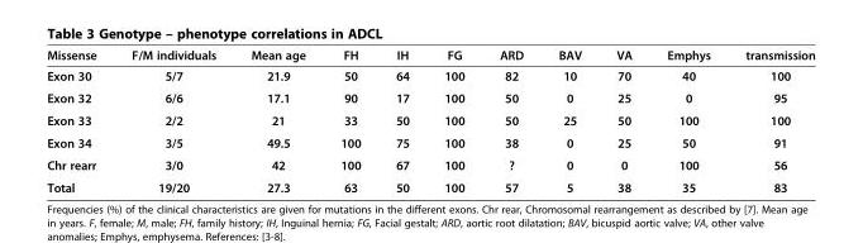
<table><thead><tr><td>Missense</td><td>F/M individuals</td><td>Mean age</td><td>FH</td><td>IH</td><td>FG</td><td>ARD</td><td>BAV</td><td>VA</td><td>Emphys</td><td>transmission</td></tr></thead><tbody><tr><td>Exon 30</td><td>5/7</td><td>21.9</td><td>50</td><td>64</td><td>100</td><td>82</td><td>10</td><td>70</td><td>40</td><td>100</td></tr><tr><td>Exon 32</td><td>6/6</td><td>17.1</td><td>90</td><td>17</td><td>100</td><td>50</td><td>0</td><td>25</td><td>0</td><td>95</td></tr><tr><td>Exon 33</td><td>2/2</td><td>21</td><td>33</td><td>50</td><td>100</td><td>50</td><td>25</td><td>50</td><td>100</td><td>100</td></tr><tr><td>Exon 34</td><td>3/5</td><td>49.5</td><td>100</td><td>75</td><td>100</td><td>38</td><td>0</td><td>25</td><td>50</td><td>91</td></tr><tr><td>Chr rearr</td><td>3/0</td><td>42</td><td>100</td><td>67</td><td>100</td><td>?</td><td>0</td><td>0</td><td>100</td><td>56</td></tr><tr><td>Total</td><td>19/20</td><td>27.3</td><td>63</td><td>50</td><td>100</td><td>57</td><td>5</td><td>38</td><td>35</td><td>83</td></tr></tbody></table>